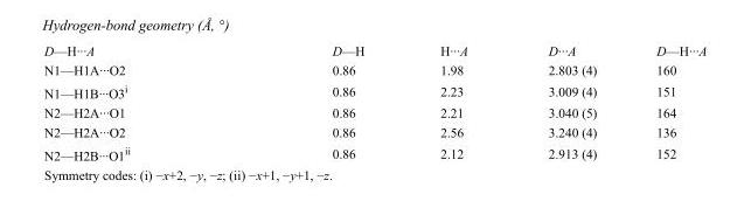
<table><tbody><tr><td>D—H···A</td><td>D—H</td><td>H···A</td><td>D···A</td><td>D—H···A</td></tr><tr><td>N1—H1A···O2</td><td>0.86</td><td>1.98</td><td>2.803 (4)</td><td>160</td></tr><tr><td>N1—H1B···O3<sup>i</sup></td><td>0.86</td><td>2.23</td><td>3.009 (4)</td><td>151</td></tr><tr><td>N2—H2A···O1</td><td>0.86</td><td>2.21</td><td>3.040 (5)</td><td>164</td></tr><tr><td>N2—H2A···O2</td><td>0.86</td><td>2.56</td><td>3.240 (4)</td><td>136</td></tr><tr><td>N2—H2B···O1<sup>ii</sup></td><td>0.86</td><td>2.12</td><td>2.913 (4)</td><td>152</td></tr></tbody></table>